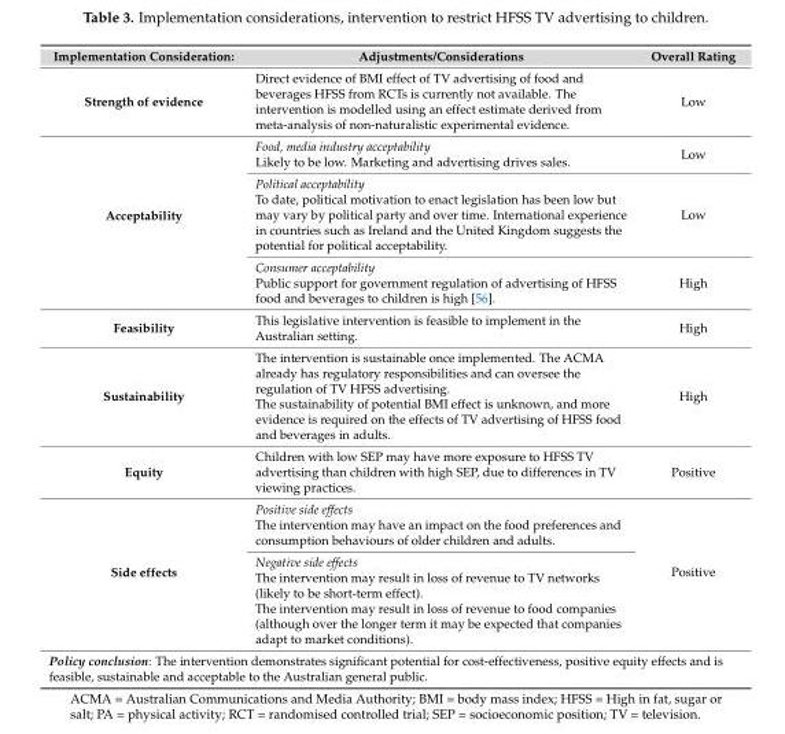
<table><thead><tr><td>Implementation Consideration:</td><td>Adjustments/Considerations</td><td>Overall Rating</td></tr></thead><tbody><tr><td>Strength of evidence</td><td>Direct evidence of BMI effect of TV advertising of food and beverages HFSS from RCTs is currently not available. The intervention is modelled using an effect estimate derived from meta-analysis of non-naturalistic experimental evidence.</td><td>Low</td></tr><tr><td rowspan="3">Acceptability</td><td>Food, media industry acceptability Likely to be low. Marketing and advertising drives sales.</td><td>Low</td></tr><tr><td>Political acceptability To date, political motivation to enact legislation has been low but may vary by political party and over time. International experience in countries such as Ireland and the United Kingdom suggests the potential for political acceptability.</td><td>Low</td></tr><tr><td>Consumer acceptability Public support for government regulation of advertising of HFSS food and beverages to children is high [56].</td><td>High</td></tr><tr><td>Feasibility</td><td>This legislative intervention is feasible to implement in the Australian setting.</td><td>High</td></tr><tr><td>Sustainability</td><td>The intervention is sustainable once implemented. The ACMA already has regulatory responsibilities and can oversee the regulation of TV HFSS advertising. The sustainability of potential BMI effect is unknown, and more evidence is required on the effects of TV advertising of HFSS food and beverages in adults.</td><td>High</td></tr><tr><td>Equity</td><td>Children with low SEP may have more exposure to HFSS TV advertising than children with high SEP, due to differences in TV viewing practices.</td><td>Positive</td></tr><tr><td rowspan="2">Side effects</td><td>Positive side effects The intervention may have an impact on the food preferences and consumption behaviours of older children and adults.</td><td rowspan="2">Positive</td></tr><tr><td>Negative side effects The intervention may result in loss of revenue to TV networks (likely to be short-term effect). The intervention may result in loss of revenue to food companies (although over the longer term it may be expected that companies adapt to market conditions).</td></tr><tr><td colspan="3">Policy conclusion: The intervention demonstrates significant potential for cost-effectiveness, positive equity effects and is feasible, sustainable and acceptable to the Australian general public.</td></tr></tbody></table>